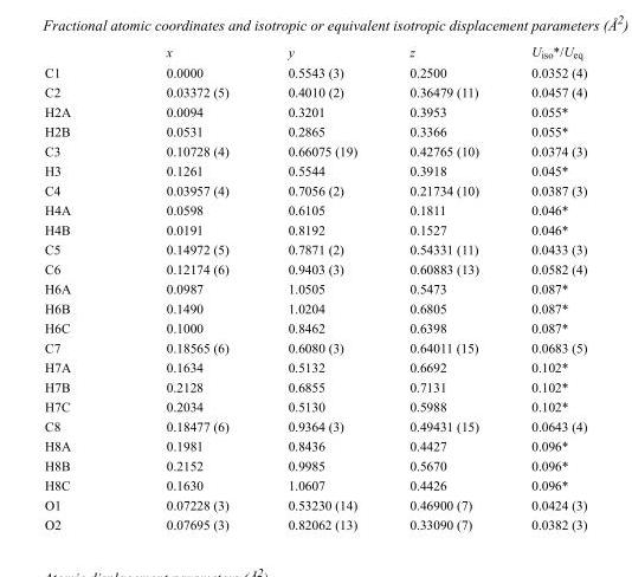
<table><thead><tr><td></td><td>x</td><td>y</td><td>z</td><td>U<sub>iso</sub>*/U<sub>eq</sub></td></tr></thead><tbody><tr><td>C1</td><td>0.0000</td><td>0.5543 (3)</td><td>0.2500</td><td>0.0352 (4)</td></tr><tr><td>C2</td><td>0.03372 (5)</td><td>0.4010 (2)</td><td>0.36479 (11)</td><td>0.0457 (4)</td></tr><tr><td>H2A</td><td>0.0094</td><td>0.3201</td><td>0.3953</td><td>0.055*</td></tr><tr><td>H2B</td><td>0.0531</td><td>0.2865</td><td>0.3366</td><td>0.055*</td></tr><tr><td>C3</td><td>0.10728 (4)</td><td>0.66075 (19)</td><td>0.42765 (10)</td><td>0.0374 (3)</td></tr><tr><td>H3</td><td>0.1261</td><td>0.5544</td><td>0.3918</td><td>0.045*</td></tr><tr><td>C4</td><td>0.03957 (4)</td><td>0.7056 (2)</td><td>0.21734 (10)</td><td>0.0387 (3)</td></tr><tr><td>H4A</td><td>0.0598</td><td>0.6105</td><td>0.1811</td><td>0.046*</td></tr><tr><td>H4B</td><td>0.0191</td><td>0.8192</td><td>0.1527</td><td>0.046*</td></tr><tr><td>C5</td><td>0.14972 (5)</td><td>0.7871 (2)</td><td>0.54331 (11)</td><td>0.0433 (3)</td></tr><tr><td>C6</td><td>0.12174 (6)</td><td>0.9403 (3)</td><td>0.60883 (13)</td><td>0.0582 (4)</td></tr><tr><td>H6A</td><td>0.0987</td><td>1.0505</td><td>0.5473</td><td>0.087*</td></tr><tr><td>H6B</td><td>0.1490</td><td>1.0204</td><td>0.6805</td><td>0.087*</td></tr><tr><td>H6C</td><td>0.1000</td><td>0.8462</td><td>0.6398</td><td>0.087*</td></tr><tr><td>C7</td><td>0.18565 (6)</td><td>0.6080 (3)</td><td>0.64011 (15)</td><td>0.0683 (5)</td></tr><tr><td>H7A</td><td>0.1634</td><td>0.5132</td><td>0.6692</td><td>0.102*</td></tr><tr><td>H7B</td><td>0.2128</td><td>0.6855</td><td>0.7131</td><td>0.102*</td></tr><tr><td>H7C</td><td>0.2034</td><td>0.5130</td><td>0.5988</td><td>0.102*</td></tr><tr><td>C8</td><td>0.18477 (6)</td><td>0.9364 (3)</td><td>0.49431 (15)</td><td>0.0643 (4)</td></tr><tr><td>H8A</td><td>0.1981</td><td>0.8436</td><td>0.4427</td><td>0.096*</td></tr><tr><td>H8B</td><td>0.2152</td><td>0.9985</td><td>0.5670</td><td>0.096*</td></tr><tr><td>H8C</td><td>0.1630</td><td>1.0607</td><td>0.4426</td><td>0.096*</td></tr><tr><td>O1</td><td>0.07228 (3)</td><td>0.53230 (14)</td><td>0.46900 (7)</td><td>0.0424 (3)</td></tr><tr><td>O2</td><td>0.07695 (3)</td><td>0.82062 (13)</td><td>0.33090 (7)</td><td>0.0382 (3)</td></tr></tbody></table>